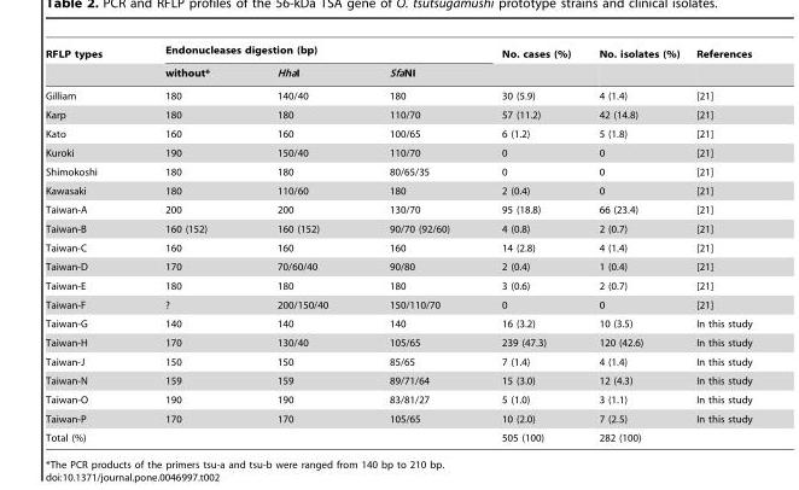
<table><thead><tr><td rowspan="2">RFLP types</td><td colspan="3">Endonucleases digestion (bp)</td><td rowspan="2">No. cases (%)</td><td rowspan="2">No. isolates (%)</td><td rowspan="2">References</td></tr><tr><td>without*</td><td>HhaI</td><td>SfaNI</td></tr></thead><tbody><tr><td>Gilliam</td><td>180</td><td>140/40</td><td>180</td><td>30 (5.9)</td><td>4 (1.4)</td><td>[21]</td></tr><tr><td>Karp</td><td>180</td><td>180</td><td>110/70</td><td>57 (11.2)</td><td>42 (14.8)</td><td>[21]</td></tr><tr><td>Kato</td><td>160</td><td>160</td><td>100/65</td><td>6 (1.2)</td><td>5 (1.8)</td><td>[21]</td></tr><tr><td>Kuroki</td><td>190</td><td>150/40</td><td>110/70</td><td>0</td><td>0</td><td>[21]</td></tr><tr><td>Shimokoshi</td><td>180</td><td>180</td><td>80/65/35</td><td>0</td><td>0</td><td>[21]</td></tr><tr><td>Kawasaki</td><td>180</td><td>110/60</td><td>180</td><td>2 (0.4)</td><td>0</td><td>[21]</td></tr><tr><td>Taiwan-A</td><td>200</td><td>200</td><td>130/70</td><td>95 (18.8)</td><td>66 (23.4)</td><td>[21]</td></tr><tr><td>Taiwan-B</td><td>160 (152)</td><td>160 (152)</td><td>90/70 (92/60)</td><td>4 (0.8)</td><td>2 (0.7)</td><td>[21]</td></tr><tr><td>Taiwan-C</td><td>160</td><td>160</td><td>160</td><td>14 (2.8)</td><td>4 (1.4)</td><td>[21]</td></tr><tr><td>Taiwan-D</td><td>170</td><td>70/60/40</td><td>90/80</td><td>2 (0.4)</td><td>1 (0.4)</td><td>[21]</td></tr><tr><td>Taiwan-E</td><td>180</td><td>180</td><td>180</td><td>3 (0.6)</td><td>2 (0.7)</td><td>[21]</td></tr><tr><td>Taiwan-F</td><td>?</td><td>200/150/40</td><td>150/110/70</td><td>0</td><td>0</td><td>[21]</td></tr><tr><td>Taiwan-G</td><td>140</td><td>140</td><td>140</td><td>16 (3.2)</td><td>10 (3.5)</td><td>In this study</td></tr><tr><td>Taiwan-H</td><td>170</td><td>130/40</td><td>105/65</td><td>239 (47.3)</td><td>120 (42.6)</td><td>In this study</td></tr><tr><td>Taiwan-J</td><td>150</td><td>150</td><td>85/65</td><td>7 (1.4)</td><td>4 (1.4)</td><td>In this study</td></tr><tr><td>Taiwan-N</td><td>159</td><td>159</td><td>89/71/64</td><td>15 (3.0)</td><td>12 (4.3)</td><td>In this study</td></tr><tr><td>Taiwan-O</td><td>190</td><td>190</td><td>83/81/27</td><td>5 (1.0)</td><td>3 (1.1)</td><td>In this study</td></tr><tr><td>Taiwan-P</td><td>170</td><td>170</td><td>105/65</td><td>10 (2.0)</td><td>7 (2.5)</td><td>In this study</td></tr><tr><td>Total (%)</td><td></td><td></td><td></td><td>505 (100)</td><td>282 (100)</td><td></td></tr></tbody></table>